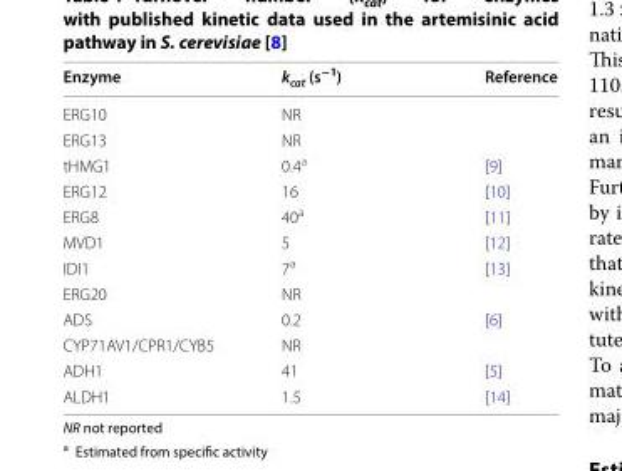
<table><thead><tr><td>Enzyme</td><td>k<sub>cat</sub> (s<sup>−1</sup>)</td><td>Reference</td></tr></thead><tbody><tr><td>ERG10</td><td>NR</td><td></td></tr><tr><td>ERG13</td><td>NR</td><td></td></tr><tr><td>tHMG1</td><td>0.4<sup>a</sup></td><td>[9]</td></tr><tr><td>ERG12</td><td>16</td><td>[10]</td></tr><tr><td>ERG8</td><td>40<sup>a</sup></td><td>[11]</td></tr><tr><td>MVD1</td><td>5</td><td>[12]</td></tr><tr><td>IDI1</td><td>7<sup>a</sup></td><td>[13]</td></tr><tr><td>ERG20</td><td>NR</td><td></td></tr><tr><td>ADS</td><td>0.2</td><td>[6]</td></tr><tr><td>CYP71AV1/CPR1/CYB5</td><td>NR</td><td></td></tr><tr><td>ADH1</td><td>41</td><td>[5]</td></tr><tr><td>ALDH1</td><td>1.5</td><td>[14]</td></tr></tbody></table>